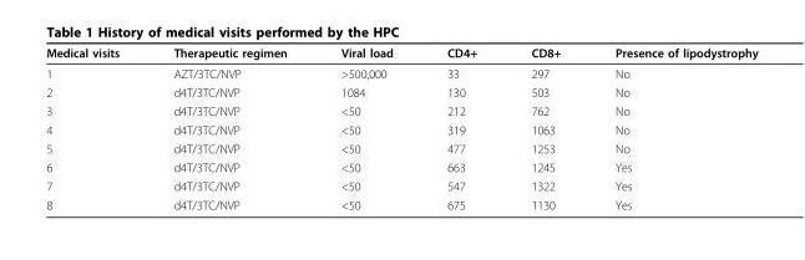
<table><thead><tr><td>Medical visits</td><td>Therapeutic regimen</td><td>Viral load</td><td>CD4+</td><td>CD8+</td><td>Presence of lipodystrophy</td></tr></thead><tbody><tr><td>1</td><td>AZT/3TC/NVP</td><td>&gt;500,000</td><td>33</td><td>297</td><td>No</td></tr><tr><td>2</td><td>d4T/3TC/NVP</td><td>1084</td><td>130</td><td>503</td><td>No</td></tr><tr><td>3</td><td>d4T/3TC/NVP</td><td>&lt;50</td><td>212</td><td>762</td><td>No</td></tr><tr><td>4</td><td>d4T/3TC/NVP</td><td>&lt;50</td><td>319</td><td>1063</td><td>No</td></tr><tr><td>5</td><td>d4T/3TC/NVP</td><td>&lt;50</td><td>477</td><td>1253</td><td>No</td></tr><tr><td>6</td><td>d4T/3TC/NVP</td><td>&lt;50</td><td>663</td><td>1245</td><td>Yes</td></tr><tr><td>7</td><td>d4T/3TC/NVP</td><td>&lt;50</td><td>547</td><td>1322</td><td>Yes</td></tr><tr><td>8</td><td>d4T/3TC/NVP</td><td>&lt;50</td><td>675</td><td>1130</td><td>Yes</td></tr></tbody></table>